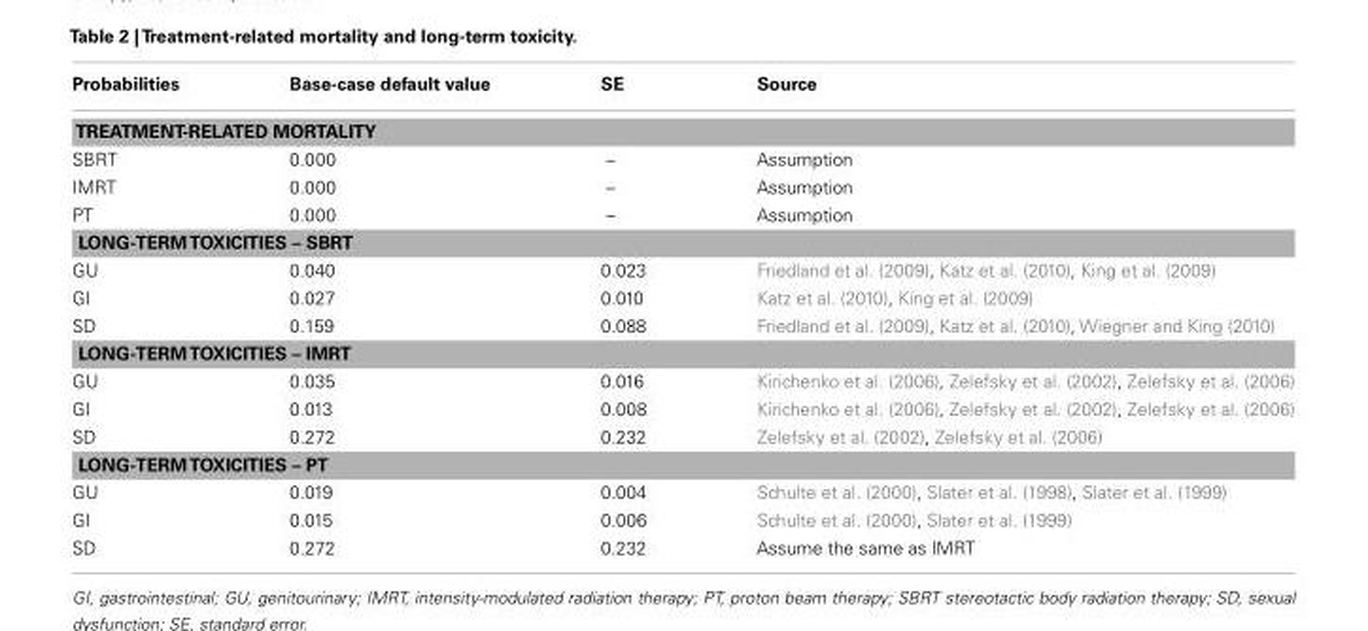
<table><thead><tr><td>Probabilities</td><td>Base-case default value</td><td>SE</td><td>Source</td></tr></thead><tbody><tr><td colspan="4">TREATMENT-RELATED MORTALITY</td></tr><tr><td>SBRT</td><td>0.000</td><td>–</td><td>Assumption</td></tr><tr><td>IMRT</td><td>0.000</td><td>–</td><td>Assumption</td></tr><tr><td>PT</td><td>0.000</td><td>–</td><td>Assumption</td></tr><tr><td colspan="4">LONG-TERMTOXICITIES – SBRT</td></tr><tr><td>GU</td><td>0.040</td><td>0.023</td><td>Friedland et al. (2009), Katz et al. (2010), King et al. (2009)</td></tr><tr><td>GI</td><td>0.027</td><td>0.010</td><td>Katz et al. (2010), King et al. (2009)</td></tr><tr><td>SD</td><td>0.159</td><td>0.088</td><td>Friedland et al. (2009), Katz et al. (2010), Wiegner and King (2010)</td></tr><tr><td colspan="4">LONG-TERMTOXICITIES – IMRT</td></tr><tr><td>GU</td><td>0.035</td><td>0.016</td><td>Kirichenko et al. (2006), Zelefsky et al. (2002), Zelefsky et al. (2006)</td></tr><tr><td>GI</td><td>0.013</td><td>0.008</td><td>Kirichenko et al. (2006), Zelefsky et al. (2002), Zelefsky et al. (2006)</td></tr><tr><td>SD</td><td>0.272</td><td>0.232</td><td>Zelefsky et al. (2002), Zelefsky et al. (2006)</td></tr><tr><td colspan="4">LONG-TERMTOXICITIES – PT</td></tr><tr><td>GU</td><td>0.019</td><td>0.004</td><td>Schulte et al. (2000), Slater et al. (1998), Slater et al. (1999)</td></tr><tr><td>GI</td><td>0.015</td><td>0.006</td><td>Schulte et al. (2000), Slater et al. (1999)</td></tr><tr><td>SD</td><td>0.272</td><td>0.232</td><td>Assume the same as IMRT</td></tr></tbody></table>